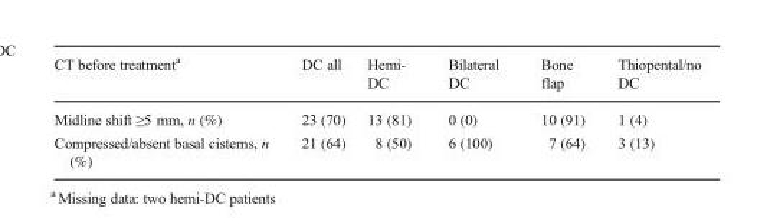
<table><thead><tr><td>CT before treatment<sup>a</sup></td><td>DC all</td><td>Hemi- DC</td><td>Bilateral DC</td><td>Bone flap</td><td>Thiopental/no DC</td></tr></thead><tbody><tr><td>Midline shift ≥5 mm, n (%)</td><td>23 (70)</td><td>13 (81)</td><td>0 (0)</td><td>10 (91)</td><td>1 (4)</td></tr><tr><td>Compressed/absent basal cisterns, n (%)</td><td>21 (64)</td><td>8 (50)</td><td>6 (100)</td><td>7 (64)</td><td>3 (13)</td></tr></tbody></table>